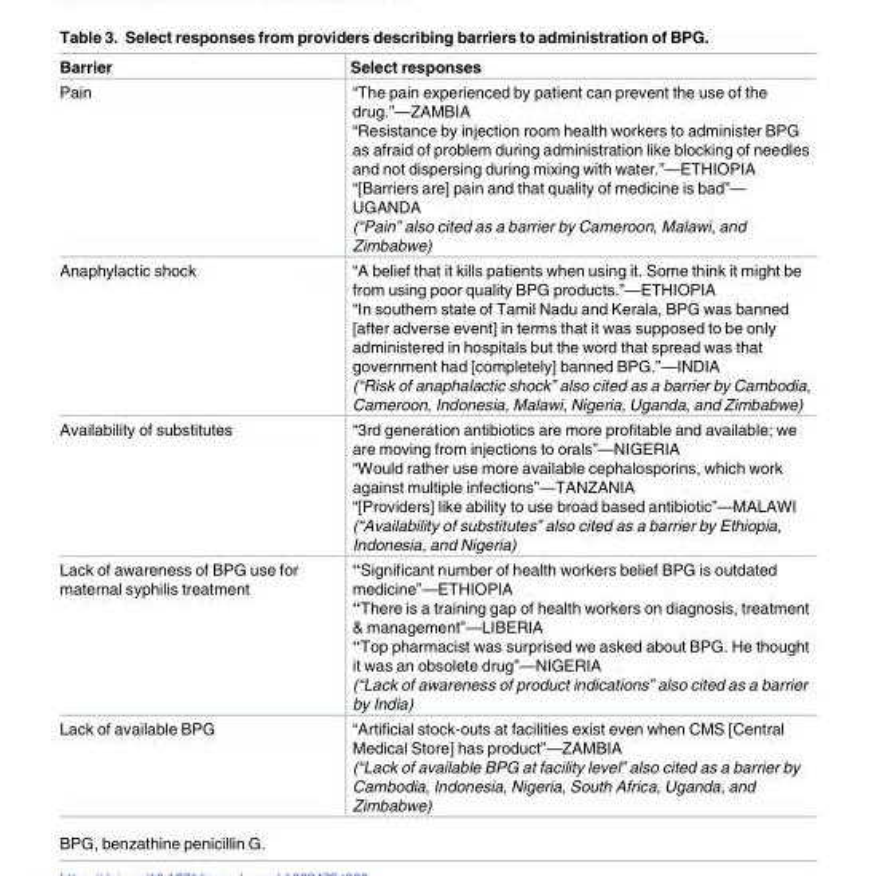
<table><thead><tr><td>Barrier</td><td>Select responses</td></tr></thead><tbody><tr><td>Pain</td><td>“The pain experienced by patient can prevent the use of the drug.”—ZAMBIA “Resistance by injection room health workers to administer BPG as afraid of problem during administration like blocking of needles and not dispersing during mixing with water.”—ETHIOPIA “[Barriers are] pain and that quality of medicine is bad”— UGANDA (“Pain” also cited as a barrier by Cameroon, Malawi, and Zimbabwe)</td></tr><tr><td>Anaphylactic shock</td><td>“A belief that it kills patients when using it. Some think it might be from using poor quality BPG products.”—ETHIOPIA “In southern state of Tamil Nadu and Kerala, BPG was banned [after adverse event] in terms that it was supposed to be only administered in hospitals but the word that spread was that government had [completely] banned BPG.”—INDIA (“Risk of anaphalactic shock” also cited as a barrier by Cambodia, Cameroon, Indonesia, Malawi, Nigeria, Uganda, and Zimbabwe)</td></tr><tr><td>Availability of substitutes</td><td>“3rd generation antibiotics are more profitable and available; we are moving from injections to orals”—NIGERIA “Would rather use more available cephalosporins, which work against multiple infections”—TANZANIA “[Providers] like ability to use broad based antibiotic”—MALAWI (“Availability of substitutes” also cited as a barrier by Ethiopia, Indonesia, and Nigeria)</td></tr><tr><td>Lack of awareness of BPG use for maternal syphilis treatment</td><td>“Significant number of health workers belief BPG is outdated medicine”—ETHIOPIA “There is a training gap of health workers on diagnosis, treatment &amp; management”—LIBERIA “Top pharmacist was surprised we asked about BPG. He thought it was an obsolete drug”—NIGERIA (“Lack of awareness of product indications” also cited as a barrier by India)</td></tr><tr><td>Lack of available BPG</td><td>“Artificial stock-outs at facilities exist even when CMS [Central Medical Store] has product”—ZAMBIA (“Lack of available BPG at facility level” also cited as a barrier by Cambodia, Indonesia, Nigeria, South Africa, Uganda, and Zimbabwe)</td></tr></tbody></table>